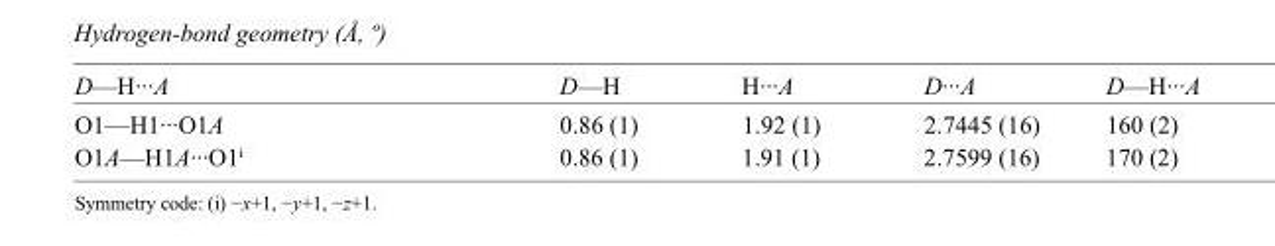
<table><tbody><tr><td>D—H···A</td><td>D—H</td><td>H···A</td><td>D···A</td><td>D—H···A</td></tr><tr><td>O1—H1···O1A</td><td>0.86 (1)</td><td>1.92 (1)</td><td>2.7445 (16)</td><td>160 (2)</td></tr><tr><td>O1A—H1A···O1<sup>i</sup></td><td>0.86 (1)</td><td>1.91 (1)</td><td>2.7599 (16)</td><td>170 (2)</td></tr></tbody></table>